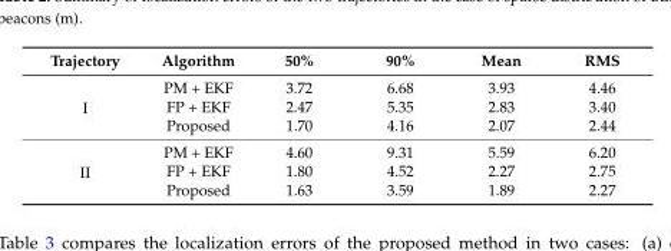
<table><thead><tr><td>Trajectory</td><td>Algorithm</td><td>50%</td><td>90%</td><td>Mean</td><td>RMS</td></tr></thead><tbody><tr><td rowspan="3">I</td><td>PM + EKF</td><td>3.72</td><td>6.68</td><td>3.93</td><td>4.46</td></tr><tr><td>FP + EKF</td><td>2.47</td><td>5.35</td><td>2.83</td><td>3.40</td></tr><tr><td>Proposed</td><td>1.70</td><td>4.16</td><td>2.07</td><td>2.44</td></tr><tr><td rowspan="3">II</td><td>PM + EKF</td><td>4.60</td><td>9.31</td><td>5.59</td><td>6.20</td></tr><tr><td>FP + EKF</td><td>1.80</td><td>4.52</td><td>2.27</td><td>2.75</td></tr><tr><td>Proposed</td><td>1.63</td><td>3.59</td><td>1.89</td><td>2.27</td></tr></tbody></table>